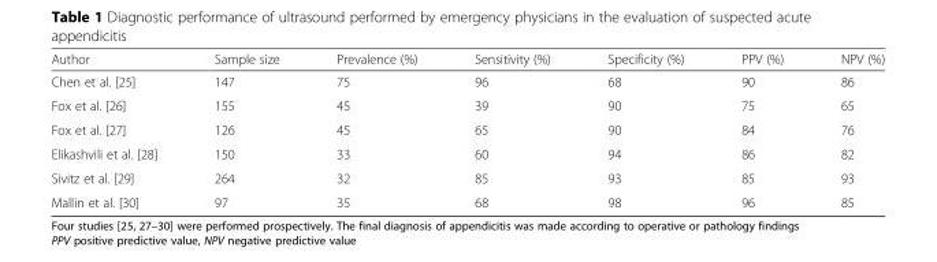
<table><thead><tr><td>Author</td><td>Sample size</td><td>Prevalence (%)</td><td>Sensitivity (%)</td><td>Specificity (%)</td><td>PPV (%)</td><td>NPV (%)</td></tr></thead><tbody><tr><td>Chen et al. [25]</td><td>147</td><td>75</td><td>96</td><td>68</td><td>90</td><td>86</td></tr><tr><td>Fox et al. [26]</td><td>155</td><td>45</td><td>39</td><td>90</td><td>75</td><td>65</td></tr><tr><td>Fox et al. [27]</td><td>126</td><td>45</td><td>65</td><td>90</td><td>84</td><td>76</td></tr><tr><td>Elikashvili et al. [28]</td><td>150</td><td>33</td><td>60</td><td>94</td><td>86</td><td>82</td></tr><tr><td>Sivitz et al. [29]</td><td>264</td><td>32</td><td>85</td><td>93</td><td>85</td><td>93</td></tr><tr><td>Mallin et al. [30]</td><td>97</td><td>35</td><td>68</td><td>98</td><td>96</td><td>85</td></tr></tbody></table>